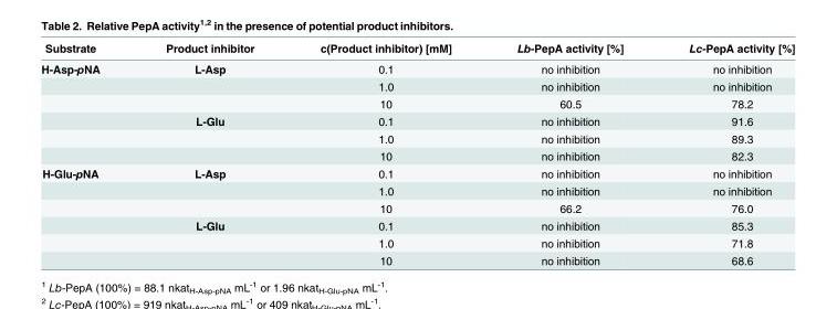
<table><thead><tr><td>Substrate</td><td>Product inhibitor</td><td>c(Product inhibitor) [mM]</td><td>Lb-PepA activity [%]</td><td>Lc-PepA activity [%]</td></tr></thead><tbody><tr><td rowspan="6">H-Asp-pNA</td><td>L-Asp</td><td>0.1</td><td>no inhibition</td><td>no inhibition</td></tr><tr><td></td><td>1.0</td><td>no inhibition</td><td>no inhibition</td></tr><tr><td></td><td>10</td><td>60.5</td><td>78.2</td></tr><tr><td>L-Glu</td><td>0.1</td><td>no inhibition</td><td>91.6</td></tr><tr><td></td><td>1.0</td><td>no inhibition</td><td>89.3</td></tr><tr><td></td><td>10</td><td>no inhibition</td><td>82.3</td></tr><tr><td rowspan="6">H-Glu-pNA</td><td>L-Asp</td><td>0.1</td><td>no inhibition</td><td>no inhibition</td></tr><tr><td></td><td>1.0</td><td>no inhibition</td><td>no inhibition</td></tr><tr><td></td><td>10</td><td>66.2</td><td>76.0</td></tr><tr><td>L-Glu</td><td>0.1</td><td>no inhibition</td><td>85.3</td></tr><tr><td></td><td>1.0</td><td>no inhibition</td><td>71.8</td></tr><tr><td></td><td>10</td><td>no inhibition</td><td>68.6</td></tr></tbody></table>